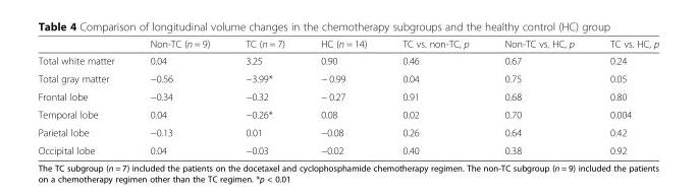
<table><thead><tr><td></td><td>Non-TC (n = 9)</td><td>TC (n = 7)</td><td>HC (n = 14)</td><td>TC vs. non-TC, p</td><td>Non-TC vs. HC, p</td><td>TC vs. HC, p</td></tr></thead><tbody><tr><td>Total white matter</td><td>0.04</td><td>3.25</td><td>0.90</td><td>0.46</td><td>0.67</td><td>0.24</td></tr><tr><td>Total gray matter</td><td>−0.56</td><td>−3.99*</td><td>− 0.99</td><td>0.04</td><td>0.75</td><td>0.05</td></tr><tr><td>Frontal lobe</td><td>−0.34</td><td>−0.32</td><td>− 0.27</td><td>0.91</td><td>0.68</td><td>0.80</td></tr><tr><td>Temporal lobe</td><td>0.04</td><td>−0.26*</td><td>0.08</td><td>0.02</td><td>0.70</td><td>0.004</td></tr><tr><td>Parietal lobe</td><td>−0.13</td><td>0.01</td><td>−0.08</td><td>0.26</td><td>0.64</td><td>0.42</td></tr><tr><td>Occipital lobe</td><td>0.04</td><td>−0.03</td><td>−0.02</td><td>0.40</td><td>0.38</td><td>0.92</td></tr></tbody></table>